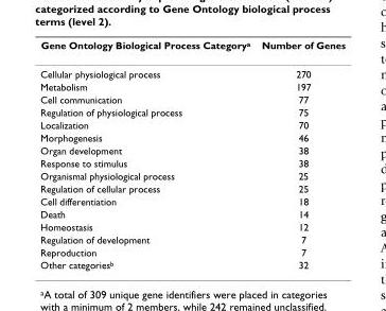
<table><thead><tr><td>Gene Ontology Biological Process Categorya</td><td>Number of Genes</td></tr></thead><tbody><tr><td>Cellular physiological process</td><td>270</td></tr><tr><td>Metabolism</td><td>197</td></tr><tr><td>Cell communication</td><td>77</td></tr><tr><td>Regulation of physiological process</td><td>75</td></tr><tr><td>Localization</td><td>70</td></tr><tr><td>Morphogenesis</td><td>46</td></tr><tr><td>Organ development</td><td>38</td></tr><tr><td>Response to stimulus</td><td>38</td></tr><tr><td>Organismal physiological process</td><td>25</td></tr><tr><td>Regulation of cellular process</td><td>25</td></tr><tr><td>Cell differentiation</td><td>18</td></tr><tr><td>Death</td><td>14</td></tr><tr><td>Homeostasis</td><td>12</td></tr><tr><td>Regulation of development</td><td>7</td></tr><tr><td>Reproduction</td><td>7</td></tr><tr><td>Other categoriesb</td><td>32</td></tr></tbody></table>